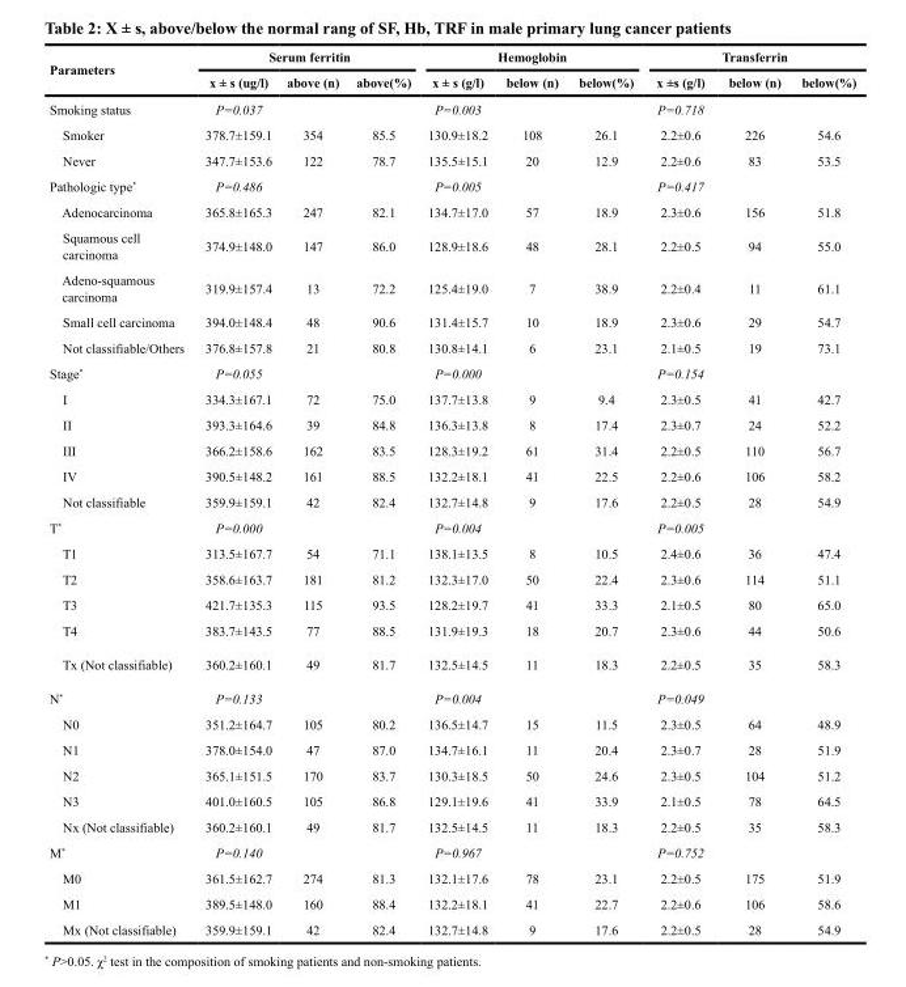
<table><thead><tr><td rowspan="2">Parameters</td><td colspan="3">Serum ferritin</td><td colspan="3">Hemoglobin</td><td colspan="3">Transferrin</td></tr><tr><td>x ± s (ug/l)</td><td>above (n)</td><td>above(%)</td><td>x ± s (g/l)</td><td>below (n)</td><td>below(%)</td><td>x ±s (g/l)</td><td>below (n)</td><td>below(%)</td></tr></thead><tbody><tr><td>Smoking status</td><td>P=0.037</td><td></td><td></td><td>P=0.003</td><td></td><td></td><td>P=0.718</td><td></td><td></td></tr><tr><td>Smoker</td><td>378.7±159.1</td><td>354</td><td>85.5</td><td>130.9±18.2</td><td>108</td><td>26.1</td><td>2.2±0.6</td><td>226</td><td>54.6</td></tr><tr><td>Never</td><td>347.7±153.6</td><td>122</td><td>78.7</td><td>135.5±15.1</td><td>20</td><td>12.9</td><td>2.2±0.6</td><td>83</td><td>53.5</td></tr><tr><td>Pathologic type*</td><td>P=0.486</td><td></td><td></td><td>P=0.005</td><td></td><td></td><td>P=0.417</td><td></td><td></td></tr><tr><td>Adenocarcinoma</td><td>365.8±165.3</td><td>247</td><td>82.1</td><td>134.7±17.0</td><td>57</td><td>18.9</td><td>2.3±0.6</td><td>156</td><td>51.8</td></tr><tr><td>Squamous cell carcinoma</td><td>374.9±148.0</td><td>147</td><td>86.0</td><td>128.9±18.6</td><td>48</td><td>28.1</td><td>2.2±0.5</td><td>94</td><td>55.0</td></tr><tr><td>Adeno-squamous carcinoma</td><td>319.9±157.4</td><td>13</td><td>72.2</td><td>125.4±19.0</td><td>7</td><td>38.9</td><td>2.2±0.4</td><td>11</td><td>61.1</td></tr><tr><td>Small cell carcinoma</td><td>394.0±148.4</td><td>48</td><td>90.6</td><td>131.4±15.7</td><td>10</td><td>18.9</td><td>2.3±0.6</td><td>29</td><td>54.7</td></tr><tr><td>Not classifiable/Others</td><td>376.8±157.8</td><td>21</td><td>80.8</td><td>130.8±14.1</td><td>6</td><td>23.1</td><td>2.1±0.5</td><td>19</td><td>73.1</td></tr><tr><td>Stage*</td><td>P=0.055</td><td></td><td></td><td>P=0.000</td><td></td><td></td><td>P=0.154</td><td></td><td></td></tr><tr><td>I</td><td>334.3±167.1</td><td>72</td><td>75.0</td><td>137.7±13.8</td><td>9</td><td>9.4</td><td>2.3±0.5</td><td>41</td><td>42.7</td></tr><tr><td>II</td><td>393.3±164.6</td><td>39</td><td>84.8</td><td>136.3±13.8</td><td>8</td><td>17.4</td><td>2.3±0.7</td><td>24</td><td>52.2</td></tr><tr><td>III</td><td>366.2±158.6</td><td>162</td><td>83.5</td><td>128.3±19.2</td><td>61</td><td>31.4</td><td>2.2±0.5</td><td>110</td><td>56.7</td></tr><tr><td>IV</td><td>390.5±148.2</td><td>161</td><td>88.5</td><td>132.2±18.1</td><td>41</td><td>22.5</td><td>2.2±0.6</td><td>106</td><td>58.2</td></tr><tr><td>Not classifiable</td><td>359.9±159.1</td><td>42</td><td>82.4</td><td>132.7±14.8</td><td>9</td><td>17.6</td><td>2.2±0.5</td><td>28</td><td>54.9</td></tr><tr><td>T*</td><td>P=0.000</td><td></td><td></td><td>P=0.004</td><td></td><td></td><td>P=0.005</td><td></td><td></td></tr><tr><td>T1</td><td>313.5±167.7</td><td>54</td><td>71.1</td><td>138.1±13.5</td><td>8</td><td>10.5</td><td>2.4±0.6</td><td>36</td><td>47.4</td></tr><tr><td>T2</td><td>358.6±163.7</td><td>181</td><td>81.2</td><td>132.3±17.0</td><td>50</td><td>22.4</td><td>2.3±0.6</td><td>114</td><td>51.1</td></tr><tr><td>T3</td><td>421.7±135.3</td><td>115</td><td>93.5</td><td>128.2±19.7</td><td>41</td><td>33.3</td><td>2.1±0.5</td><td>80</td><td>65.0</td></tr><tr><td>T4</td><td>383.7±143.5</td><td>77</td><td>88.5</td><td>131.9±19.3</td><td>18</td><td>20.7</td><td>2.3±0.6</td><td>44</td><td>50.6</td></tr><tr><td>Tx (Not classifiable)</td><td>360.2±160.1</td><td>49</td><td>81.7</td><td>132.5±14.5</td><td>11</td><td>18.3</td><td>2.2±0.5</td><td>35</td><td>58.3</td></tr><tr><td>N*</td><td>P=0.133</td><td></td><td></td><td>P=0.004</td><td></td><td></td><td>P=0.049</td><td></td><td></td></tr><tr><td>N0</td><td>351.2±164.7</td><td>105</td><td>80.2</td><td>136.5±14.7</td><td>15</td><td>11.5</td><td>2.3±0.5</td><td>64</td><td>48.9</td></tr><tr><td>N1</td><td>378.0±154.0</td><td>47</td><td>87.0</td><td>134.7±16.1</td><td>11</td><td>20.4</td><td>2.3±0.7</td><td>28</td><td>51.9</td></tr><tr><td>N2</td><td>365.1±151.5</td><td>170</td><td>83.7</td><td>130.3±18.5</td><td>50</td><td>24.6</td><td>2.3±0.5</td><td>104</td><td>51.2</td></tr><tr><td>N3</td><td>401.0±160.5</td><td>105</td><td>86.8</td><td>129.1±19.6</td><td>41</td><td>33.9</td><td>2.1±0.5</td><td>78</td><td>64.5</td></tr><tr><td>Nx (Not classifiable)</td><td>360.2±160.1</td><td>49</td><td>81.7</td><td>132.5±14.5</td><td>11</td><td>18.3</td><td>2.2±0.5</td><td>35</td><td>58.3</td></tr><tr><td>M*</td><td>P=0.140</td><td></td><td></td><td>P=0.967</td><td></td><td></td><td>P=0.752</td><td></td><td></td></tr><tr><td>M0</td><td>361.5±162.7</td><td>274</td><td>81.3</td><td>132.1±17.6</td><td>78</td><td>23.1</td><td>2.2±0.5</td><td>175</td><td>51.9</td></tr><tr><td>M1</td><td>389.5±148.0</td><td>160</td><td>88.4</td><td>132.2±18.1</td><td>41</td><td>22.7</td><td>2.2±0.6</td><td>106</td><td>58.6</td></tr><tr><td>Mx (Not classifiable)</td><td>359.9±159.1</td><td>42</td><td>82.4</td><td>132.7±14.8</td><td>9</td><td>17.6</td><td>2.2±0.5</td><td>28</td><td>54.9</td></tr></tbody></table>